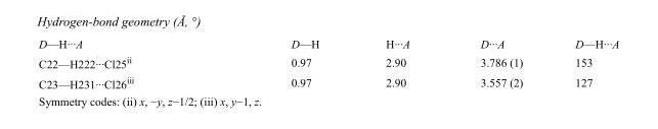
<table><tbody><tr><td>D—H···A</td><td>D—H</td><td>H···A</td><td>D···A</td><td>D—H···A</td></tr><tr><td>C22—H222···Cl25<sup>ii</sup></td><td>0.97</td><td>2.90</td><td>3.786 (1)</td><td>153</td></tr><tr><td>C23—H231···Cl26<sup>iii</sup></td><td>0.97</td><td>2.90</td><td>3.557 (2)</td><td>127</td></tr></tbody></table>